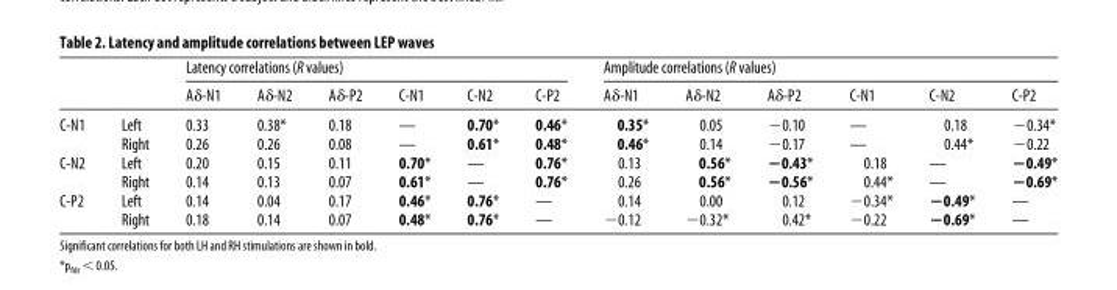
<table><thead><tr><td rowspan="2"></td><td rowspan="2"></td><td colspan="6">Latency correlations (R values)</td><td colspan="6">Amplitude correlations (R values)</td></tr><tr><td>Aδ-N1</td><td>Aδ-N2</td><td>Aδ-P2</td><td>C-N1</td><td>C-N2</td><td>C-P2</td><td>Aδ-N1</td><td>Aδ-N2</td><td>Aδ-P2</td><td>C-N1</td><td>C-N2</td><td>C-P2</td></tr></thead><tbody><tr><td rowspan="2">C-N1</td><td>Left</td><td>0.33</td><td>0.38*</td><td>0.18</td><td>—</td><td>0.70*</td><td>0.46*</td><td>0.35*</td><td>0.05</td><td>−0.10</td><td>—</td><td>0.18</td><td>−0.34*</td></tr><tr><td>Right</td><td>0.26</td><td>0.26</td><td>0.08</td><td>—</td><td>0.61*</td><td>0.48*</td><td>0.46*</td><td>0.14</td><td>−0.17</td><td>—</td><td>0.44*</td><td>−0.22</td></tr><tr><td rowspan="2">C-N2</td><td>Left</td><td>0.20</td><td>0.15</td><td>0.11</td><td>0.70*</td><td>—</td><td>0.76*</td><td>0.13</td><td>0.56*</td><td>−0.43*</td><td>0.18</td><td>—</td><td>−0.49*</td></tr><tr><td>Right</td><td>0.14</td><td>0.13</td><td>0.07</td><td>0.61*</td><td>—</td><td>0.76*</td><td>0.26</td><td>0.56*</td><td>−0.56*</td><td>0.44*</td><td>—</td><td>−0.69*</td></tr><tr><td rowspan="2">C-P2</td><td>Left</td><td>0.14</td><td>0.04</td><td>0.17</td><td>0.46*</td><td>0.76*</td><td>—</td><td>0.14</td><td>0.00</td><td>0.12</td><td>−0.34*</td><td>−0.49*</td><td>—</td></tr><tr><td>Right</td><td>0.18</td><td>0.14</td><td>0.07</td><td>0.48*</td><td>0.76*</td><td>—</td><td>−0.12</td><td>−0.32*</td><td>0.42*</td><td>−0.22</td><td>−0.69*</td><td>—</td></tr></tbody></table>